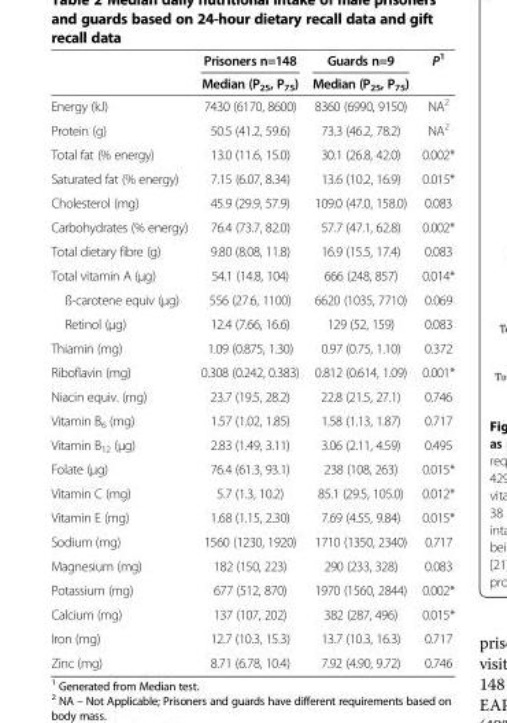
<table><thead><tr><td rowspan="2"></td><td rowspan="2">Prisoners n=148 Median (P<sub>25</sub>, P<sub>75</sub>)</td><td rowspan="2">Guards n=9 Median (P<sub>25</sub>, P<sub>75</sub>)</td><td rowspan="2">P<sup>1</sup></td></tr><tr></tr></thead><tbody><tr><td>Energy (kJ)</td><td>7430 (6170, 8600)</td><td>8360 (6990, 9150)</td><td>NA<sup>2</sup></td></tr><tr><td>Protein (g)</td><td>50.5 (41.2, 59.6)</td><td>73.3 (46.2, 78.2)</td><td>NA<sup>2</sup></td></tr><tr><td>Total fat (% energy)</td><td>13.0 (11.6, 15.0)</td><td>30.1 (26.8, 42.0)</td><td>0.002*</td></tr><tr><td>Saturated fat (% energy)</td><td>7.15 (6.07, 8.34)</td><td>13.6 (10.2, 16.9)</td><td>0.015*</td></tr><tr><td>Cholesterol (mg)</td><td>45.9 (29.9, 57.9)</td><td>109.0 (47.0, 158.0)</td><td>0.083</td></tr><tr><td>Carbohydrates (% energy)</td><td>76.4 (73.7, 82.0)</td><td>57.7 (47.1, 62.8)</td><td>0.002*</td></tr><tr><td>Total dietary fibre (g)</td><td>9.80 (8.08, 11.8)</td><td>16.9 (15.5, 17.4)</td><td>0.083</td></tr><tr><td>Total vitamin A (μg)</td><td>54.1 (14.8, 104)</td><td>666 (248, 857)</td><td>0.014*</td></tr><tr><td>ß-carotene equiv (μg)</td><td>556 (27.6, 1100)</td><td>6620 (1035, 7710)</td><td>0.069</td></tr><tr><td>Retinol (μg)</td><td>12.4 (7.66, 16.6)</td><td>129 (52, 159)</td><td>0.083</td></tr><tr><td>Thiamin (mg)</td><td>1.09 (0.875, 1.30)</td><td>0.97 (0.75, 1.10)</td><td>0.372</td></tr><tr><td>Riboflavin (mg)</td><td>0.308 (0.242, 0.383)</td><td>0.812 (0.614, 1.09)</td><td>0.001*</td></tr><tr><td>Niacin equiv. (mg)</td><td>23.7 (19.5, 28.2)</td><td>22.8 (21.5, 27.1)</td><td>0.746</td></tr><tr><td>Vitamin B<sub>6</sub> (mg)</td><td>1.57 (1.02, 1.85)</td><td>1.58 (1.13, 1.87)</td><td>0.717</td></tr><tr><td>Vitamin B<sub>12</sub> (μg)</td><td>2.83 (1.49, 3.11)</td><td>3.06 (2.11, 4.59)</td><td>0.495</td></tr><tr><td>Folate (μg)</td><td>76.4 (61.3, 93.1)</td><td>238 (108, 263)</td><td>0.015*</td></tr><tr><td>Vitamin C (mg)</td><td>5.7 (1.3, 10.2)</td><td>85.1 (29.5, 105.0)</td><td>0.012*</td></tr><tr><td>Vitamin E (mg)</td><td>1.68 (1.15, 2.30)</td><td>7.69 (4.55, 9.84)</td><td>0.015*</td></tr><tr><td>Sodium (mg)</td><td>1560 (1230, 1920)</td><td>1710 (1350, 2340)</td><td>0.717</td></tr><tr><td>Magnesium (mg)</td><td>182 (150, 223)</td><td>290 (233, 328)</td><td>0.083</td></tr><tr><td>Potassium (mg)</td><td>677 (512, 870)</td><td>1970 (1560, 2844)</td><td>0.002*</td></tr><tr><td>Calcium (mg)</td><td>137 (107, 202)</td><td>382 (287, 496)</td><td>0.015*</td></tr><tr><td>Iron (mg)</td><td>12.7 (10.3, 15.3)</td><td>13.7 (10.3, 16.3)</td><td>0.717</td></tr><tr><td>Zinc (mg)</td><td>8.71 (6.78, 10.4)</td><td>7.92 (4.90, 9.72)</td><td>0.746</td></tr></tbody></table>